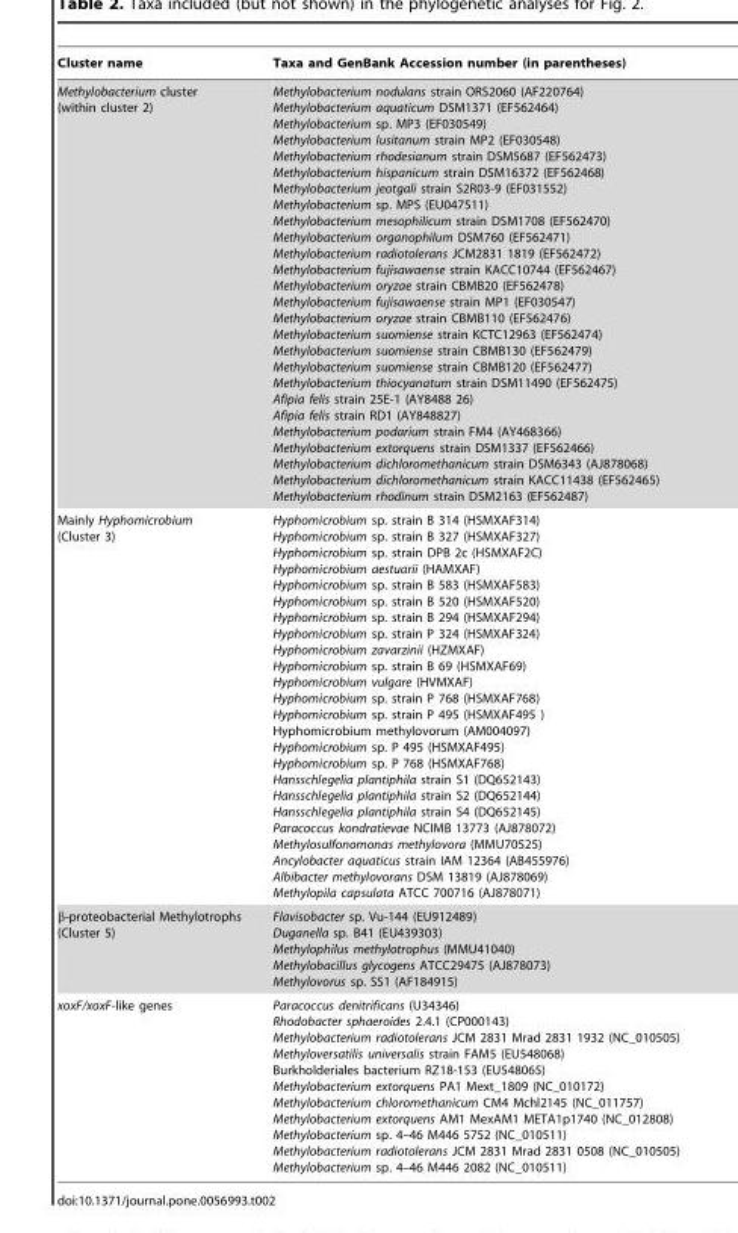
<table><thead><tr><td>Cluster name</td><td>Taxa and GenBank Accession number (in parentheses)</td></tr></thead><tbody><tr><td>Methylobacterium cluster (within cluster 2)</td><td>Methylobacterium nodulans strain ORS2060 (AF220764) Methylobacterium aquaticum DSM1371 (EF562464) Methylobacterium sp. MP3 (EF030549) Methylobacterium lusitanum strain MP2 (EF030548) Methylobacterium rhodesianum strain DSM5687 (EF562473) Methylobacterium hispanicum strain DSM16372 (EF562468) Methylobacterium jeotgali strain S2R03-9 (EF031552) Methylobacterium sp. MPS (EU047511) Methylobacterium mesophilicum strain DSM1708 (EF562470) Methylobacterium organophilum DSM760 (EF562471) Methylobacterium radiotolerans JCM2831 1819 (EF562472) Methylobacterium fujisawaense strain KACC10744 (EF562467) Methylobacterium oryzae strain CBMB20 (EF562478) Methylobacterium fujisawaense strain MP1 (EF030547) Methylobacterium oryzae strain CBMB110 (EF562476) Methylobacterium suomiense strain KCTC12963 (EF562474) Methylobacterium suomiense strain CBMB130 (EF562479) Methylobacterium suomiense strain CBMB120 (EF562477) Methylobacterium thiocyanatum strain DSM11490 (EF562475) Afipia felis strain 25E-1 (AY8488 26) Afipia felis strain RD1 (AY848827) Methylobacterium podarium strain FM4 (AY468366) Methylobacterium extorquens strain DSM1337 (EF562466) Methylobacterium dichloromethanicum strain DSM6343 (AJ878068) Methylobacterium dichloromethanicum strain KACC11438 (EF562465) Methylobacterium rhodinum strain DSM2163 (EF562487)</td></tr><tr><td>Mainly Hyphomicrobium (Cluster 3)</td><td>Hyphomicrobium sp. strain B 314 (HSMXAF314) Hyphomicrobium sp. strain B 327 (HSMXAF327) Hyphomicrobium sp. strain DPB 2c (HSMXAF2C) Hyphomicrobium aestuarii (HAMXAF) Hyphomicrobium sp. strain B 583 (HSMXAF583) Hyphomicrobium sp. strain B 520 (HSMXAF520) Hyphomicrobium sp. strain B 294 (HSMXAF294) Hyphomicrobium sp. strain P 324 (HSMXAF324) Hyphomicrobium zavarzinii (HZMXAF) Hyphomicrobium sp. strain B 69 (HSMXAF69) Hyphomicrobium vulgare (HVMXAF) Hyphomicrobium sp. strain P 768 (HSMXAF768) Hyphomicrobium sp. strain P 495 (HSMXAF495 ) Hyphomicrobium methylovorum (AM004097) Hyphomicrobium sp. P 495 (HSMXAF495) Hyphomicrobium sp. P 768 (HSMXAF768) Hansschlegelia plantiphila strain S1 (DQ652143) Hansschlegelia plantiphila strain S2 (DQ652144) Hansschlegelia plantiphila strain S4 (DQ652145) Paracoccus kondratievae NCIMB 13773 (AJ878072) Methylosulfonomonas methylovora (MMU70525) Ancylobacter aquaticus strain IAM 12364 (AB455976) Albibacter methylovorans DSM 13819 (AJ878069) Methylopila capsulata ATCC 700716 (AJ878071)</td></tr><tr><td>β-proteobacterial Methylotrophs (Cluster 5)</td><td>Flavisobacter sp. Vu-144 (EU912489) Duganella sp. B41 (EU439303) Methylophilus methylotrophus (MMU41040) Methylobacillus glycogens ATCC29475 (AJ878073) Methylovorus sp. SS1 (AF184915)</td></tr><tr><td>xoxF/xoxF-like genes</td><td>Paracoccus denitrificans (U34346) Rhodobacter sphaeroides 2.4.1 (CP000143) Methylobacterium radiotolerans JCM 2831 Mrad 2831 1932 (NC_010505) Methyloversatilis universalis strain FAM5 (EU548068) Burkholderiales bacterium RZ18-153 (EU548065) Methylobacterium extorquens PA1 Mext_1809 (NC_010172) Methylobacterium chloromethanicum CM4 Mchl2145 (NC_011757) Methylobacterium extorquens AM1 MexAM1 META1p1740 (NC_012808) Methylobacterium sp. 4–46 M446 5752 (NC_010511) Methylobacterium radiotolerans JCM 2831 Mrad 2831 0508 (NC_010505) Methylobacterium sp. 4–46 M446 2082 (NC_010511)</td></tr></tbody></table>